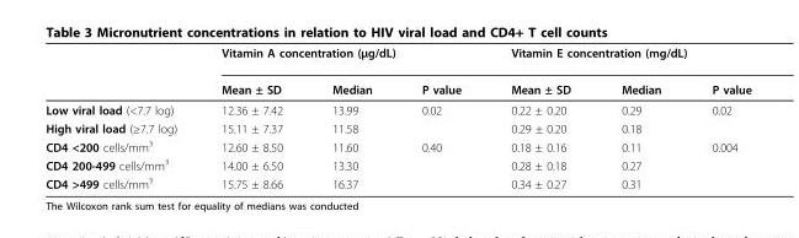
<table><thead><tr><td rowspan="2"></td><td colspan="3">Vitamin A concentration (µg/dL)</td><td colspan="3">Vitamin E concentration (mg/dL)</td></tr><tr><td>Mean ± SD</td><td>Median</td><td>P value</td><td>Mean ± SD</td><td>Median</td><td>P value</td></tr></thead><tbody><tr><td>Low viral load (&lt;7.7 log)</td><td>12.36 ± 7.42</td><td>13.99</td><td>0.02</td><td>0.22 ± 0.20</td><td>0.29</td><td>0.02</td></tr><tr><td>High viral load (≥7.7 log)</td><td>15.11 ± 7.37</td><td>11.58</td><td></td><td>0.29 ± 0.20</td><td>0.18</td><td></td></tr><tr><td>CD4 &lt;200 cells/mm<sup>3</sup></td><td>12.60 ± 8.50</td><td>11.60</td><td>0.40</td><td>0.18 ± 0.16</td><td>0.11</td><td>0.004</td></tr><tr><td>CD4 200-499 cells/mm<sup>3</sup></td><td>14.00 ± 6.50</td><td>13.30</td><td></td><td>0.28 ± 0.18</td><td>0.27</td><td></td></tr><tr><td>CD4 &gt;499 cells/mm<sup>3</sup></td><td>15.75 ± 8.66</td><td>16.37</td><td></td><td>0.34 ± 0.27</td><td>0.31</td><td></td></tr></tbody></table>